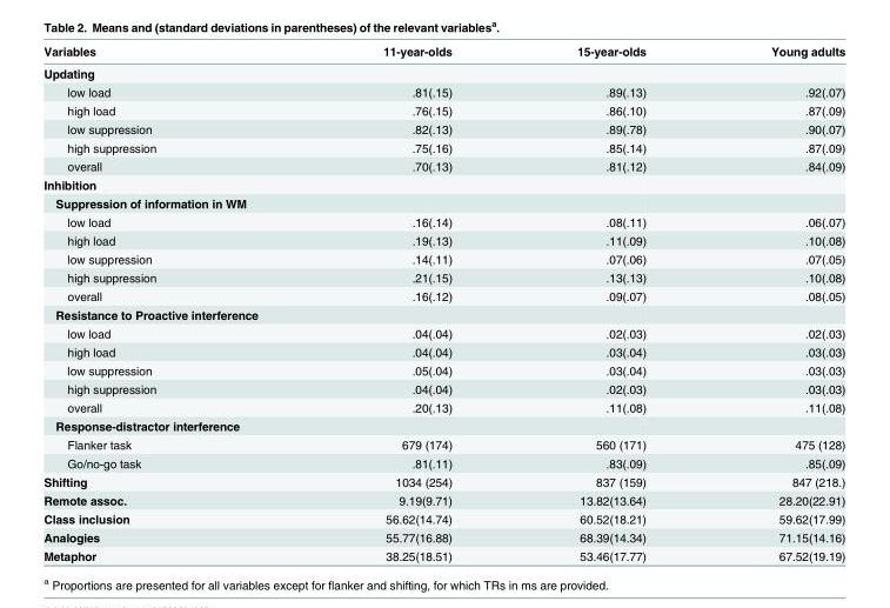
<table><thead><tr><td>Variables</td><td>11-year-olds</td><td>15-year-olds</td><td>Young adults</td></tr></thead><tbody><tr><td colspan="4">Updating</td></tr><tr><td>low load</td><td>.81(.15)</td><td>.89(.13)</td><td>.92(.07)</td></tr><tr><td>high load</td><td>.76(.15)</td><td>.86(.10)</td><td>.87(.09)</td></tr><tr><td>low suppression</td><td>.82(.13)</td><td>.89(.78)</td><td>.90(.07)</td></tr><tr><td>high suppression</td><td>.75(.16)</td><td>.85(.14)</td><td>.87(.09)</td></tr><tr><td>overall</td><td>.70(.13)</td><td>.81(.12)</td><td>.84(.09)</td></tr><tr><td colspan="4">Inhibition</td></tr><tr><td colspan="4">Suppression of information in WM</td></tr><tr><td>low load</td><td>.16(.14)</td><td>.08(.11)</td><td>.06(.07)</td></tr><tr><td>high load</td><td>.19(.13)</td><td>.11(.09)</td><td>.10(.08)</td></tr><tr><td>low suppression</td><td>.14(.11)</td><td>.07(.06)</td><td>.07(.05)</td></tr><tr><td>high suppression</td><td>.21(.15)</td><td>.13(.13)</td><td>.10(.08)</td></tr><tr><td>overall</td><td>.16(.12)</td><td>.09(.07)</td><td>.08(.05)</td></tr><tr><td colspan="4">Resistance to Proactive interference</td></tr><tr><td>low load</td><td>.04(.04)</td><td>.02(.03)</td><td>.02(.03)</td></tr><tr><td>high load</td><td>.04(.04)</td><td>.03(.04)</td><td>.03(.03)</td></tr><tr><td>low suppression</td><td>.05(.04)</td><td>.03(.04)</td><td>.03(.03)</td></tr><tr><td>high suppression</td><td>.04(.04)</td><td>.02(.03)</td><td>.03(.03)</td></tr><tr><td>overall</td><td>.20(.13)</td><td>.11(.08)</td><td>.11(.08)</td></tr><tr><td colspan="4">Response-distractor interference</td></tr><tr><td>Flanker task</td><td>679 (174)</td><td>560 (171)</td><td>475 (128)</td></tr><tr><td>Go/no-go task</td><td>.81(.11)</td><td>.83(.09)</td><td>.85(.09)</td></tr><tr><td>Shifting</td><td>1034 (254)</td><td>837 (159)</td><td>847 (218.)</td></tr><tr><td>Remote assoc.</td><td>9.19(9.71)</td><td>13.82(13.64)</td><td>28.20(22.91)</td></tr><tr><td>Class inclusion</td><td>56.62(14.74)</td><td>60.52(18.21)</td><td>59.62(17.99)</td></tr><tr><td>Analogies</td><td>55.77(16.88)</td><td>68.39(14.34)</td><td>71.15(14.16)</td></tr><tr><td>Metaphor</td><td>38.25(18.51)</td><td>53.46(17.77)</td><td>67.52(19.19)</td></tr></tbody></table>